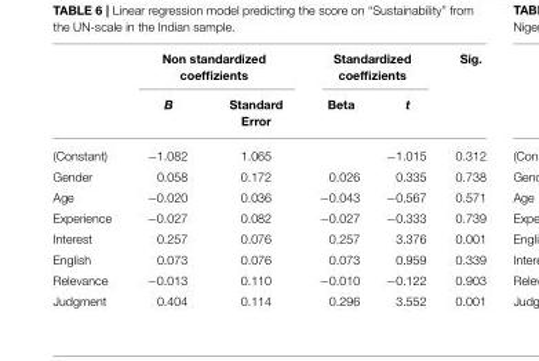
<table><thead><tr><td rowspan="2"></td><td colspan="2">Non standardized coeffizients</td><td colspan="2">Standardized coeffizients</td><td rowspan="2">Sig.</td></tr><tr><td>B</td><td>Standard Error</td><td>Beta</td><td>t</td></tr></thead><tbody><tr><td>(Constant)</td><td>−1.082</td><td>1.065</td><td></td><td>−1.015</td><td>0.312</td></tr><tr><td>Gender</td><td>0.058</td><td>0.172</td><td>0.026</td><td>0.335</td><td>0.738</td></tr><tr><td>Age</td><td>−0.020</td><td>0.036</td><td>−0.043</td><td>−0.567</td><td>0.571</td></tr><tr><td>Experience</td><td>−0.027</td><td>0.082</td><td>−0.027</td><td>−0.333</td><td>0.739</td></tr><tr><td>Interest</td><td>0.257</td><td>0.076</td><td>0.257</td><td>3.376</td><td>0.001</td></tr><tr><td>English</td><td>0.073</td><td>0.076</td><td>0.073</td><td>0.959</td><td>0.339</td></tr><tr><td>Relevance</td><td>−0.013</td><td>0.110</td><td>−0.010</td><td>−0.122</td><td>0.903</td></tr><tr><td>Judgment</td><td>0.404</td><td>0.114</td><td>0.296</td><td>3.552</td><td>0.001</td></tr></tbody></table>